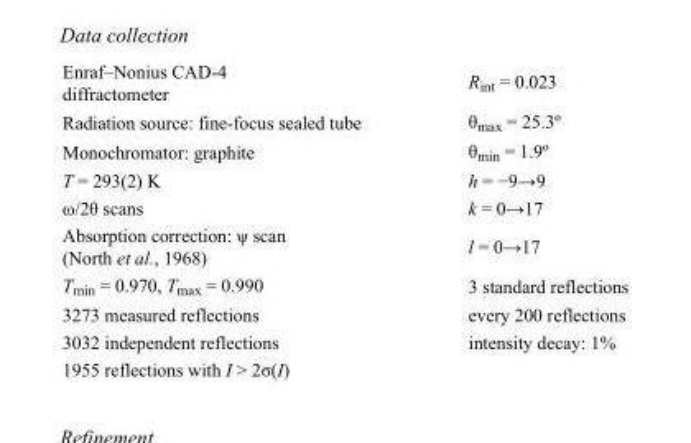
<table><tbody><tr><td>Enraf–Nonius CAD-4 diffractometer</td><td>R<sub>int</sub> = 0.023</td></tr><tr><td>Radiation source: fine-focus sealed tube</td><td>θ<sub>max</sub> = 25.3º</td></tr><tr><td>Monochromator: graphite</td><td>θ<sub>min</sub> = 1.9º</td></tr><tr><td>T = 293(2) K</td><td>h = −9→9</td></tr><tr><td>ω/2θ scans</td><td>k = 0→17</td></tr><tr><td>Absorption correction: ψ scan (North et al., 1968)</td><td>l = 0→17</td></tr><tr><td>T<sub>min</sub> = 0.970, T<sub>max</sub> = 0.990</td><td>3 standard reflections</td></tr><tr><td>3273 measured reflections</td><td>every 200 reflections</td></tr><tr><td>3032 independent reflections</td><td>intensity decay: 1%</td></tr><tr><td>1955 reflections with I &gt; 2σ(I)</td><td></td></tr></tbody></table>